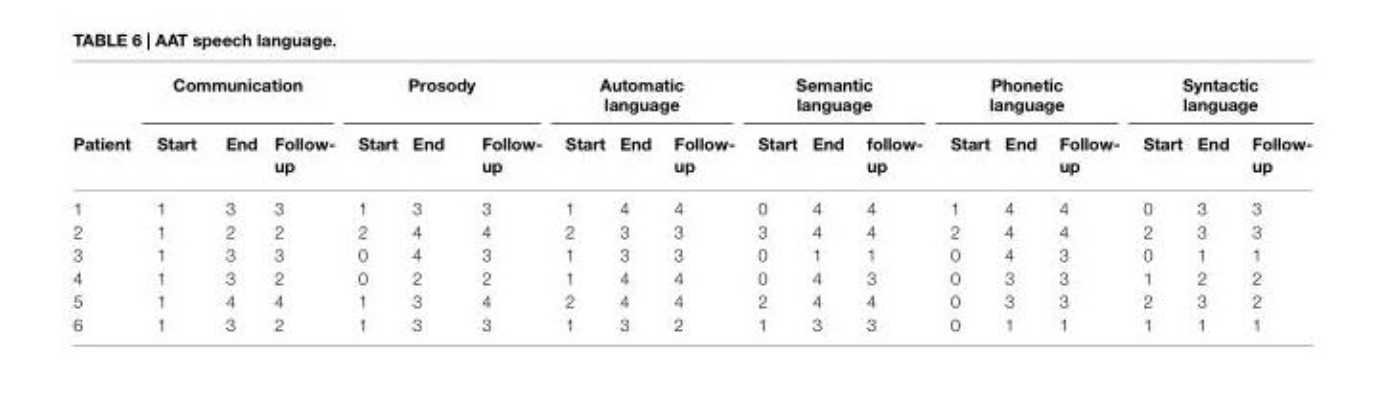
<table><thead><tr><td rowspan="2">Patient</td><td colspan="3">Communication</td><td colspan="3">Prosody</td><td colspan="3">Automatic language</td><td colspan="3">Semantic language</td><td colspan="3">Phonetic language</td><td colspan="3">Syntactic language</td></tr><tr><td>Start</td><td>End</td><td>Follow- up</td><td>Start</td><td>End</td><td>Follow- up</td><td>Start</td><td>End</td><td>Follow- up</td><td>Start</td><td>End</td><td>follow- up</td><td>Start</td><td>End</td><td>Follow- up</td><td>Start</td><td>End</td><td>Follow- up</td></tr></thead><tbody><tr><td>1</td><td>1</td><td>3</td><td>3</td><td>1</td><td>3</td><td>3</td><td>1</td><td>4</td><td>4</td><td>0</td><td>4</td><td>4</td><td>1</td><td>4</td><td>4</td><td>0</td><td>3</td><td>3</td></tr><tr><td>2</td><td>1</td><td>2</td><td>2</td><td>2</td><td>4</td><td>4</td><td>2</td><td>3</td><td>3</td><td>3</td><td>4</td><td>4</td><td>2</td><td>4</td><td>4</td><td>2</td><td>3</td><td>3</td></tr><tr><td>3</td><td>1</td><td>3</td><td>3</td><td>0</td><td>4</td><td>3</td><td>1</td><td>3</td><td>3</td><td>0</td><td>1</td><td>1</td><td>0</td><td>4</td><td>3</td><td>0</td><td>1</td><td>1</td></tr><tr><td>4</td><td>1</td><td>3</td><td>2</td><td>0</td><td>2</td><td>2</td><td>1</td><td>4</td><td>4</td><td>0</td><td>4</td><td>3</td><td>0</td><td>3</td><td>3</td><td>1</td><td>2</td><td>2</td></tr><tr><td>5</td><td>1</td><td>4</td><td>4</td><td>1</td><td>3</td><td>4</td><td>2</td><td>4</td><td>4</td><td>2</td><td>4</td><td>4</td><td>0</td><td>3</td><td>3</td><td>2</td><td>3</td><td>2</td></tr><tr><td>6</td><td>1</td><td>3</td><td>2</td><td>1</td><td>3</td><td>3</td><td>1</td><td>3</td><td>2</td><td>1</td><td>3</td><td>3</td><td>0</td><td>1</td><td>1</td><td>1</td><td>1</td><td>1</td></tr></tbody></table>